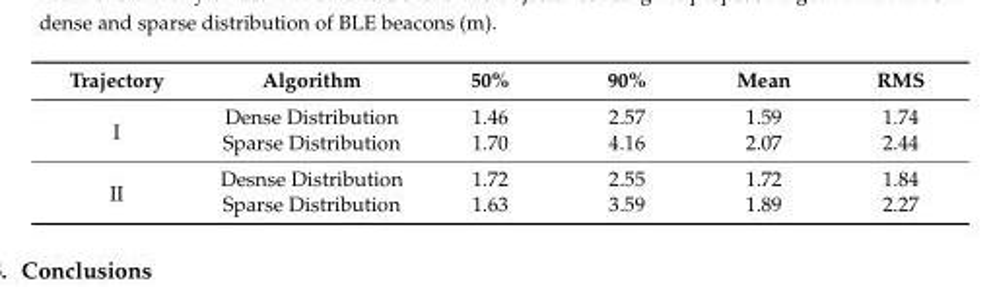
<table><thead><tr><td>Trajectory</td><td>Algorithm</td><td>50%</td><td>90%</td><td>Mean</td><td>RMS</td></tr></thead><tbody><tr><td rowspan="2">I</td><td>Dense Distribution</td><td>1.46</td><td>2.57</td><td>1.59</td><td>1.74</td></tr><tr><td>Sparse Distribution</td><td>1.70</td><td>4.16</td><td>2.07</td><td>2.44</td></tr><tr><td rowspan="2">II</td><td>Desnse Distribution</td><td>1.72</td><td>2.55</td><td>1.72</td><td>1.84</td></tr><tr><td>Sparse Distribution</td><td>1.63</td><td>3.59</td><td>1.89</td><td>2.27</td></tr></tbody></table>